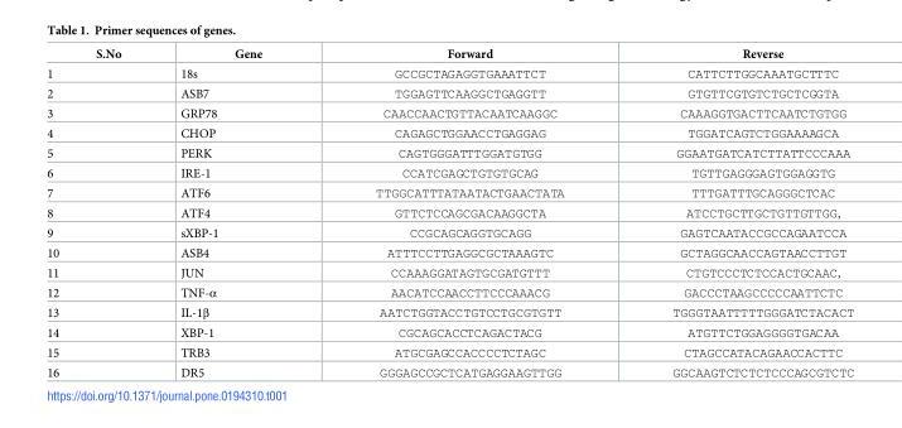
<table><thead><tr><td>S.No</td><td>Gene</td><td>Forward</td><td>Reverse</td></tr></thead><tbody><tr><td>1</td><td>18s</td><td>GCCGCTAGAGGTGAAATTCT</td><td>CATTCTTGGCAAATGCTTTC</td></tr><tr><td>2</td><td>ASB7</td><td>TGGAGTTCAAGGCTGAGGTT</td><td>GTGTTCGTGTCTGCTCGGTA</td></tr><tr><td>3</td><td>GRP78</td><td>CAACCAACTGTTACAATCAAGGC</td><td>CAAAGGTGACTTCAATCTGTGG</td></tr><tr><td>4</td><td>CHOP</td><td>CAGAGCTGGAACCTGAGGAG</td><td>TGGATCAGTCTGGAAAAGCA</td></tr><tr><td>5</td><td>PERK</td><td>CAGTGGGATTTGGATGTGG</td><td>GGAATGATCATCTTATTCCCAAA</td></tr><tr><td>6</td><td>IRE-1</td><td>CCATCGAGCTGTGTGCAG</td><td>TGTTGAGGGAGTGGAGGTG</td></tr><tr><td>7</td><td>ATF6</td><td>TTGGCATTTATAATACTGAACTATA</td><td>TTTGATTTGCAGGGCTCAC</td></tr><tr><td>8</td><td>ATF4</td><td>GTTCTCCAGCGACAAGGCTA</td><td>ATCCTGCTTGCTGTTGTTGG,</td></tr><tr><td>9</td><td>sXBP-1</td><td>CCGCAGCAGGTGCAGG</td><td>GAGTCAATACCGCCAGAATCCA</td></tr><tr><td>10</td><td>ASB4</td><td>ATTTCCTTGAGGCGCTAAAGTC</td><td>GCTAGGCAACCAGTAACCTTGT</td></tr><tr><td>11</td><td>JUN</td><td>CCAAAGGATAGTGCGATGTTT</td><td>CTGTCCCTCTCCACTGCAAC,</td></tr><tr><td>12</td><td>TNF-α</td><td>AACATCCAACCTTCCCAAACG</td><td>GACCCTAAGCCCCCAATTCTC</td></tr><tr><td>13</td><td>IL-1β</td><td>AATCTGGTACCTGTCCTGCGTGTT</td><td>TGGGTAATTTTTGGGATCTACACT</td></tr><tr><td>14</td><td>XBP-1</td><td>CGCAGCACCTCAGACTACG</td><td>ATGTTCTGGAGGGGTGACAA</td></tr><tr><td>15</td><td>TRB3</td><td>ATGCGAGCCACCCCTCTAGC</td><td>CTAGCCATACAGAACCACTTC</td></tr><tr><td>16</td><td>DR5</td><td>GGGAGCCGCTCATGAGGAAGTTGG</td><td>GGCAAGTCTCTCTCCCAGCGTCTC</td></tr></tbody></table>